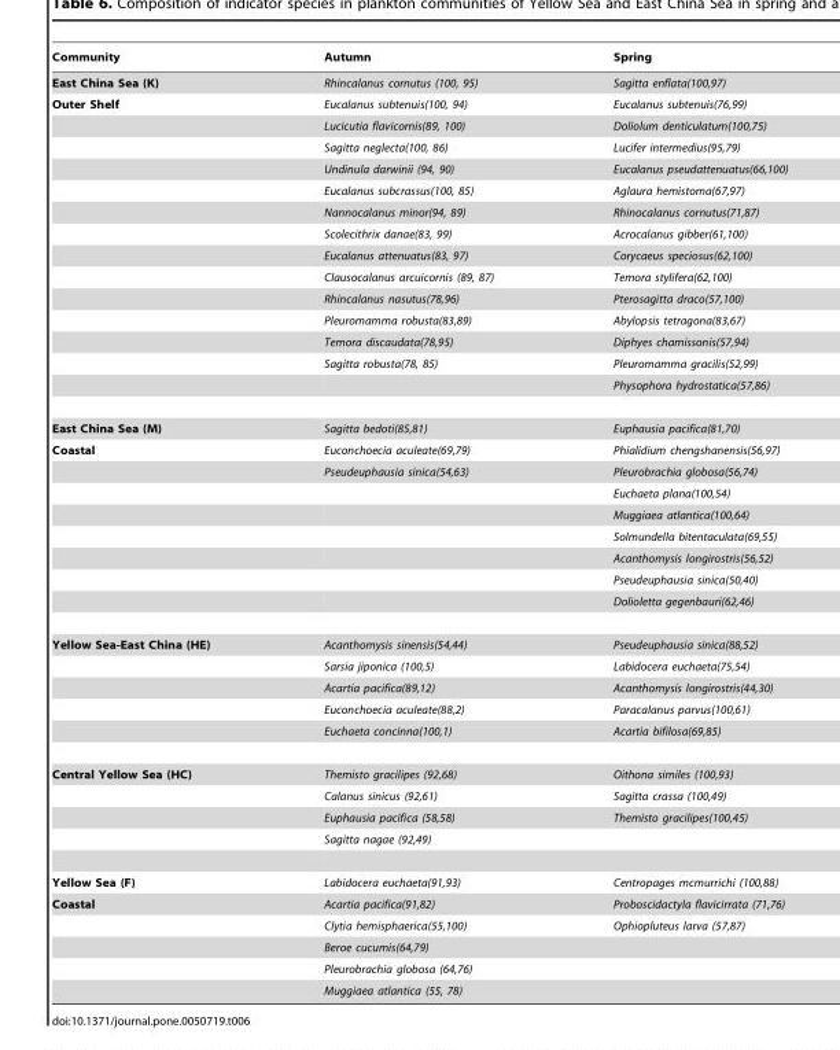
<table><thead><tr><td>Community</td><td>Autumn</td><td>Spring</td></tr></thead><tbody><tr><td>East China Sea (K)</td><td>Rhincalanus cornutus (100, 95)</td><td>Sagitta enflata(100,97)</td></tr><tr><td rowspan="14">Outer Shelf</td><td>Eucalanus subtenuis(100, 94)</td><td>Eucalanus subtenuis(76,99)</td></tr><tr><td>Lucicutia flavicornis(89, 100)</td><td>Doliolum denticulatum(100,75)</td></tr><tr><td>Sagitta neglecta(100, 86)</td><td>Lucifer intermedius(95,79)</td></tr><tr><td>Undinula darwinii (94, 90)</td><td>Eucalanus pseudattenuatus(66,100)</td></tr><tr><td>Eucalanus subcrassus(100, 85)</td><td>Aglaura hemistoma(67,97)</td></tr><tr><td>Nannocalanus minor(94, 89)</td><td>Rhinocalanus cornutus(71,87)</td></tr><tr><td>Scolecithrix danae(83, 99)</td><td>Acrocalanus gibber(61,100)</td></tr><tr><td>Eucalanus attenuatus(83, 97)</td><td>Corycaeus speciosus(62,100)</td></tr><tr><td>Clausocalanus arcuicornis (89, 87)</td><td>Temora stylifera(62,100)</td></tr><tr><td>Rhincalanus nasutus(78,96)</td><td>Pterosagitta draco(57,100)</td></tr><tr><td>Pleuromamma robusta(83,89)</td><td>Abylopsis tetragona(83,67)</td></tr><tr><td>Temora discaudata(78,95)</td><td>Diphyes chamissonis(57,94)</td></tr><tr><td>Sagitta robusta(78, 85)</td><td>Pleuromamma gracilis(52,99)</td></tr><tr><td></td><td>Physophora hydrostatica(57,86)</td></tr><tr><td>East China Sea (M)</td><td>Sagitta bedoti(85,81)</td><td>Euphausia pacifica(81,70)</td></tr><tr><td rowspan="8">Coastal</td><td>Euconchoecia aculeate(69,79)</td><td>Phialidium chengshanensis(56,97)</td></tr><tr><td>Pseudeuphausia sinica(54,63)</td><td>Pleurobrachia globosa(56,74)</td></tr><tr><td></td><td>Euchaeta plana(100,54)</td></tr><tr><td></td><td>Muggiaea atlantica(100,64)</td></tr><tr><td></td><td>Solmundella bitentaculata(69,55)</td></tr><tr><td></td><td>Acanthomysis longirostris(56,52)</td></tr><tr><td></td><td>Pseudeuphausia sinica(50,40)</td></tr><tr><td></td><td>Dolioletta gegenbauri(62,46)</td></tr><tr><td rowspan="5">Yellow Sea-East China (HE)</td><td>Acanthomysis sinensis(54,44)</td><td>Pseudeuphausia sinica(88,52)</td></tr><tr><td>Sarsia jiponica (100,5)</td><td>Labidocera euchaeta(75,54)</td></tr><tr><td>Acartia pacifica(89,12)</td><td>Acanthomysis longirostris(44,30)</td></tr><tr><td>Euconchoecia aculeate(88,2)</td><td>Paracalanus parvus(100,61)</td></tr><tr><td>Euchaeta concinna(100,1)</td><td>Acartia bifilosa(69,85)</td></tr><tr><td rowspan="4">Central Yellow Sea (HC)</td><td>Themisto gracilipes (92,68)</td><td>Oithona similes (100,93)</td></tr><tr><td>Calanus sinicus (92,61)</td><td>Sagitta crassa (100,49)</td></tr><tr><td>Euphausia pacifica (58,58)</td><td>Themisto gracilipes(100,45)</td></tr><tr><td>Sagitta nagae (92,49)</td><td></td></tr><tr><td>Yellow Sea (F)</td><td>Labidocera euchaeta(91,93)</td><td>Centropages mcmurrichi (100,88)</td></tr><tr><td rowspan="5">Coastal</td><td>Acartia pacifica(91,82)</td><td>Proboscidactyla flavicirrata (71,76)</td></tr><tr><td>Clytia hemisphaerica(55,100)</td><td>Ophiopluteus larva (57,87)</td></tr><tr><td>Beroe cucumis(64,79)</td><td></td></tr><tr><td>Pleurobrachia globosa (64,76)</td><td></td></tr><tr><td>Muggiaea atlantica (55, 78)</td><td></td></tr></tbody></table>